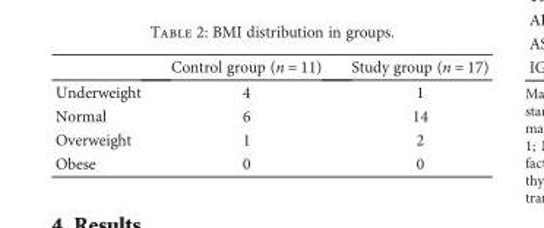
<table><thead><tr><td></td><td>Control group (n = 11)</td><td>Study group (n = 17)</td></tr></thead><tbody><tr><td>Underweight</td><td>4</td><td>1</td></tr><tr><td>Normal</td><td>6</td><td>14</td></tr><tr><td>Overweight</td><td>1</td><td>2</td></tr><tr><td>Obese</td><td>0</td><td>0</td></tr></tbody></table>